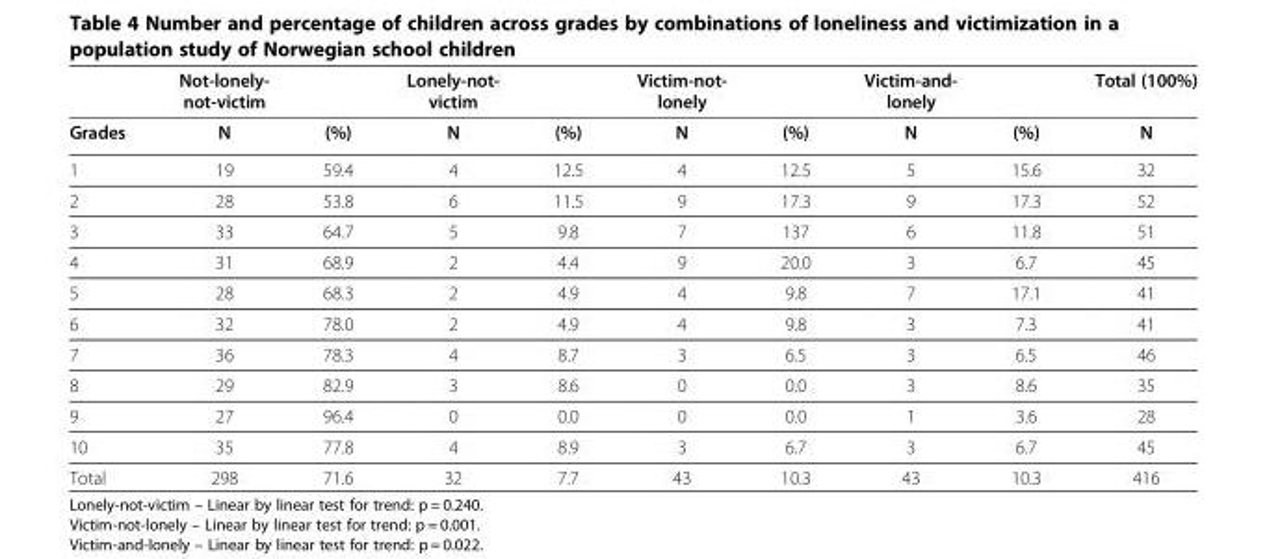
<table><thead><tr><td rowspan="2">Grades</td><td rowspan="2">Not-lonely- not-victim N</td><td rowspan="2">(%)</td><td rowspan="2">Lonely-not- victim N</td><td rowspan="2">(%)</td><td rowspan="2">Victim-not- lonely N</td><td rowspan="2">(%)</td><td rowspan="2">Victim-and- lonely N</td><td rowspan="2">(%)</td><td rowspan="2">Total (100%) N</td></tr><tr></tr></thead><tbody><tr><td>1</td><td>19</td><td>59.4</td><td>4</td><td>12.5</td><td>4</td><td>12.5</td><td>5</td><td>15.6</td><td>32</td></tr><tr><td>2</td><td>28</td><td>53.8</td><td>6</td><td>11.5</td><td>9</td><td>17.3</td><td>9</td><td>17.3</td><td>52</td></tr><tr><td>3</td><td>33</td><td>64.7</td><td>5</td><td>9.8</td><td>7</td><td>137</td><td>6</td><td>11.8</td><td>51</td></tr><tr><td>4</td><td>31</td><td>68.9</td><td>2</td><td>4.4</td><td>9</td><td>20.0</td><td>3</td><td>6.7</td><td>45</td></tr><tr><td>5</td><td>28</td><td>68.3</td><td>2</td><td>4.9</td><td>4</td><td>9.8</td><td>7</td><td>17.1</td><td>41</td></tr><tr><td>6</td><td>32</td><td>78.0</td><td>2</td><td>4.9</td><td>4</td><td>9.8</td><td>3</td><td>7.3</td><td>41</td></tr><tr><td>7</td><td>36</td><td>78.3</td><td>4</td><td>8.7</td><td>3</td><td>6.5</td><td>3</td><td>6.5</td><td>46</td></tr><tr><td>8</td><td>29</td><td>82.9</td><td>3</td><td>8.6</td><td>0</td><td>0.0</td><td>3</td><td>8.6</td><td>35</td></tr><tr><td>9</td><td>27</td><td>96.4</td><td>0</td><td>0.0</td><td>0</td><td>0.0</td><td>1</td><td>3.6</td><td>28</td></tr><tr><td>10</td><td>35</td><td>77.8</td><td>4</td><td>8.9</td><td>3</td><td>6.7</td><td>3</td><td>6.7</td><td>45</td></tr><tr><td>Total</td><td>298</td><td>71.6</td><td>32</td><td>7.7</td><td>43</td><td>10.3</td><td>43</td><td>10.3</td><td>416</td></tr></tbody></table>